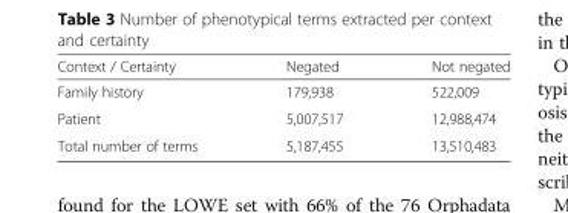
<table><thead><tr><td>Context / Certainty</td><td>Negated</td><td>Not negated</td></tr></thead><tbody><tr><td>Family history</td><td>179,938</td><td>522,009</td></tr><tr><td>Patient</td><td>5,007,517</td><td>12,988,474</td></tr><tr><td>Total number of terms</td><td>5,187,455</td><td>13,510,483</td></tr></tbody></table>